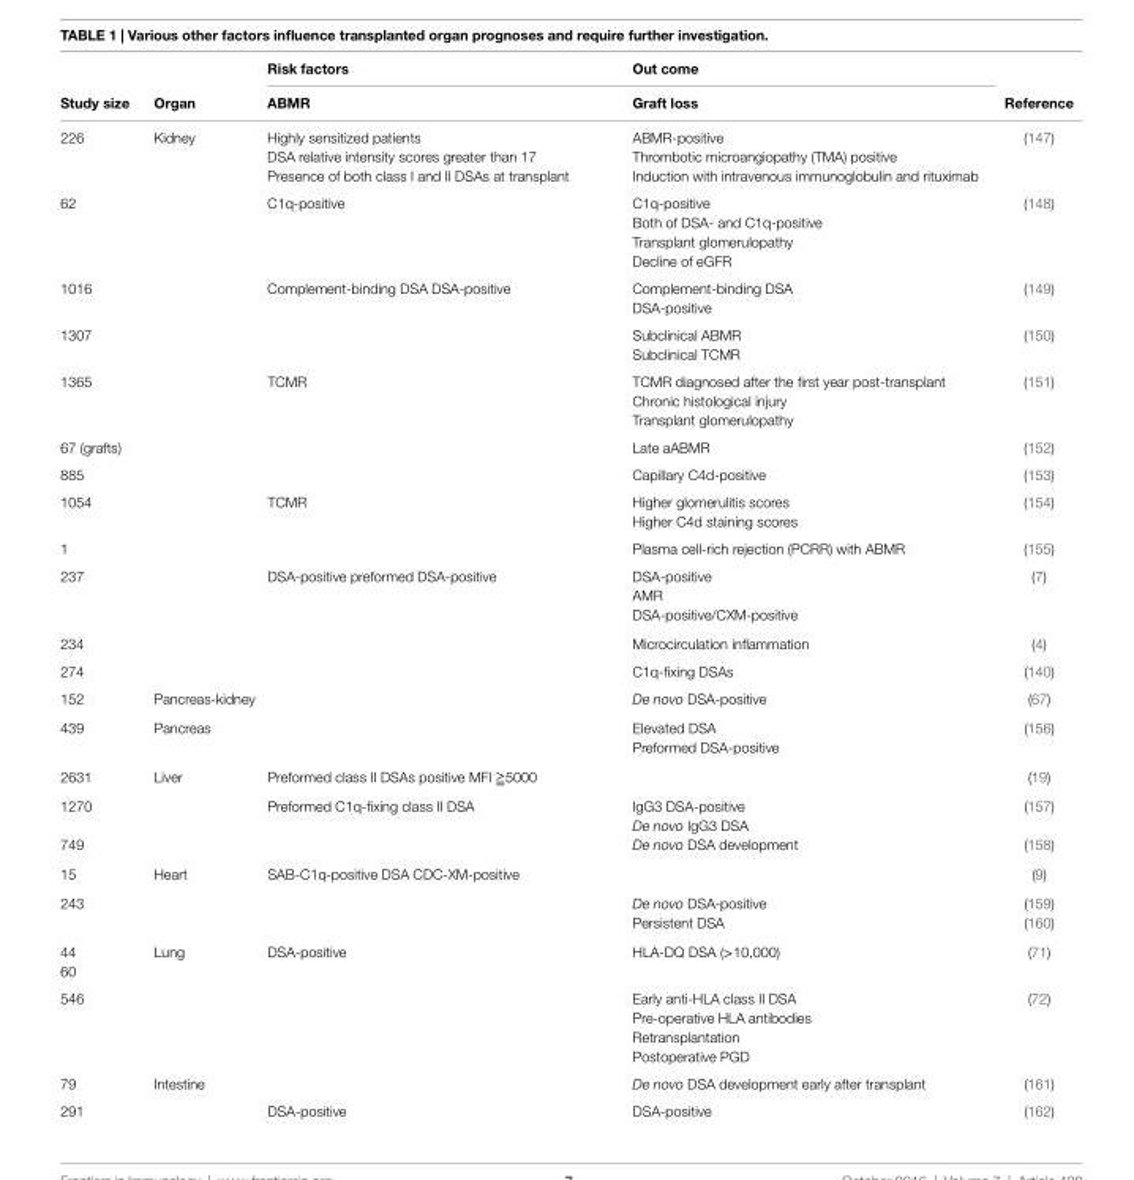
<table><thead><tr><td rowspan="2">Study size</td><td rowspan="2">Organ</td><td rowspan="2">Risk factors ABMR</td><td rowspan="2">Out come graft loss</td><td rowspan="2">Reference</td></tr><tr></tr></thead><tbody><tr><td rowspan="3">226</td><td rowspan="3">Kidney</td><td>Highly sensitized patients</td><td>ABMR-positive</td><td rowspan="3">(147)</td></tr><tr><td>DSA relative intensity scores greater than 17</td><td>Thrombotic microangiopathy (TMA) positive</td></tr><tr><td>Presence of both class I and II DSAs at transplant</td><td>Induction with intravenous immunoglobulin and rituximab</td></tr><tr><td rowspan="4">62</td><td rowspan="4"></td><td rowspan="4">C1q-positive</td><td>C1q-positive</td><td rowspan="4">(148)</td></tr><tr><td>Both of DSA- and C1q-positive</td></tr><tr><td>Transplant glomerulopathy</td></tr><tr><td>Decline of eGFR</td></tr><tr><td rowspan="2">1016</td><td rowspan="2"></td><td rowspan="2">Complement-binding DSA DSA-positive</td><td>Complement-binding DSA</td><td rowspan="2">(149)</td></tr><tr><td>DSA-positive</td></tr><tr><td rowspan="2">1307</td><td rowspan="2"></td><td rowspan="2"></td><td>Subclinical ABMR</td><td rowspan="2">(150)</td></tr><tr><td>Subclinical TCMR</td></tr><tr><td rowspan="3">1365</td><td rowspan="3"></td><td rowspan="3">TCMR</td><td>TCMR diagnosed after the first year post-transplant</td><td rowspan="3">(151)</td></tr><tr><td>Chronic histological injury</td></tr><tr><td>Transplant glomerulopathy</td></tr><tr><td>67 (grafts)</td><td></td><td></td><td>Late aABMR</td><td>(152)</td></tr><tr><td>885</td><td></td><td></td><td>Capillary C4d-positive</td><td>(153)</td></tr><tr><td rowspan="2">1054</td><td rowspan="2"></td><td rowspan="2">TCMR</td><td>Higher glomerulitis scores</td><td rowspan="2">(154)</td></tr><tr><td>Higher C4d staining scores</td></tr><tr><td>1</td><td></td><td></td><td>Plasma cell-rich rejection (PCRR) with ABMR</td><td>(155)</td></tr><tr><td rowspan="3">237</td><td rowspan="3"></td><td rowspan="3">DSA-positive preformed DSA-positive</td><td>DSA-positive</td><td rowspan="3">(7)</td></tr><tr><td>AMR</td></tr><tr><td>DSA-positive/CXM-positive</td></tr><tr><td>234</td><td></td><td></td><td>Microcirculation inflammation</td><td>(4)</td></tr><tr><td>274</td><td></td><td></td><td>C1q-fixing DSAs</td><td>(140)</td></tr><tr><td>152</td><td>Pancreas-kidney</td><td></td><td>De novo DSA-positive</td><td>(67)</td></tr><tr><td rowspan="2">439</td><td rowspan="2">Pancreas</td><td rowspan="2"></td><td>Elevated DSA</td><td rowspan="2">(156)</td></tr><tr><td>Preformed DSA-positive</td></tr><tr><td>2631</td><td>Liver</td><td>Preformed class II DSAs positive MFI ≧5000</td><td></td><td>(19)</td></tr><tr><td rowspan="2">1270</td><td rowspan="2"></td><td rowspan="2">Preformed C1q-fixing class II DSA</td><td>IgG3 DSA-positive</td><td rowspan="2">(157)</td></tr><tr><td>De novo IgG3 DSA</td></tr><tr><td>749</td><td></td><td></td><td>De novo DSA development</td><td>(158)</td></tr><tr><td>15</td><td>Heart</td><td>SAB-C1q-positive DSA CDC-XM-positive</td><td></td><td>(9)</td></tr><tr><td rowspan="2">243</td><td rowspan="2"></td><td rowspan="2"></td><td>De novo DSA-positive</td><td>(159)</td></tr><tr><td>Persistent DSA</td><td>(160)</td></tr><tr><td>44</td><td rowspan="2">Lung</td><td rowspan="2">DSA-positive</td><td rowspan="2">HLA-DQ DSA (&gt;10,000)</td><td rowspan="2">(71)</td></tr><tr><td>60</td></tr><tr><td rowspan="4">546</td><td rowspan="4"></td><td rowspan="4"></td><td>Early anti-HLA class II DSA</td><td rowspan="4">(72)</td></tr><tr><td>Pre-operative HLA antibodies</td></tr><tr><td>Retransplantation</td></tr><tr><td>Postoperative PGD</td></tr><tr><td>79</td><td>Intestine</td><td></td><td>De novo DSA development early after transplant</td><td>(161)</td></tr><tr><td>291</td><td></td><td>DSA-positive</td><td>DSA-positive</td><td>(162)</td></tr></tbody></table>